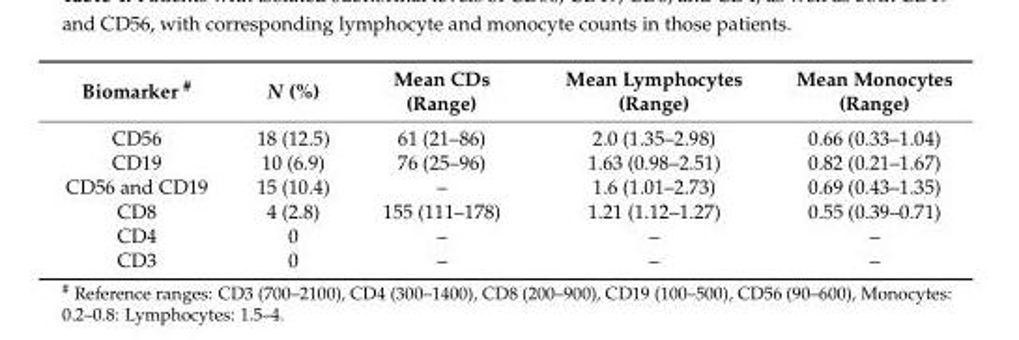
<table><thead><tr><td>Biomarker <sup>#</sup></td><td>N (%)</td><td>Mean CDs (Range)</td><td>Mean Lymphocytes (Range)</td><td>Mean Monocytes (Range)</td></tr></thead><tbody><tr><td>CD56</td><td>18 (12.5)</td><td>61 (21–86)</td><td>2.0 (1.35–2.98)</td><td>0.66 (0.33–1.04)</td></tr><tr><td>CD19</td><td>10 (6.9)</td><td>76 (25–96)</td><td>1.63 (0.98–2.51)</td><td>0.82 (0.21–1.67)</td></tr><tr><td>CD56 and CD19</td><td>15 (10.4)</td><td>–</td><td>1.6 (1.01–2.73)</td><td>0.69 (0.43–1.35)</td></tr><tr><td>CD8</td><td>4 (2.8)</td><td>155 (111–178)</td><td>1.21 (1.12–1.27)</td><td>0.55 (0.39–0.71)</td></tr><tr><td>CD4</td><td>0</td><td>–</td><td>–</td><td>–</td></tr><tr><td>CD3</td><td>0</td><td>–</td><td>–</td><td>–</td></tr></tbody></table>